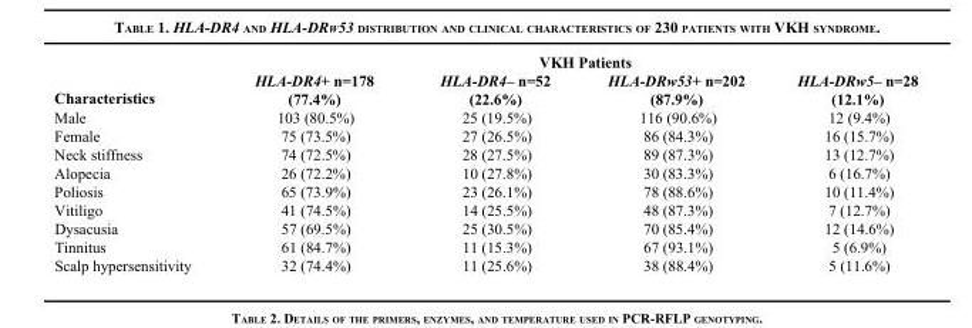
<table><thead><tr><td rowspan="2">Characteristics</td><td colspan="4">VKH Patients</td></tr><tr><td>HLA-DR4+ n=178 (77.4%)</td><td>HLA-DR4– n=52 (22.6%)</td><td>HLA-DRw53+ n=202 (87.9%)</td><td>HLA-DRw5– n=28 (12.1%)</td></tr></thead><tbody><tr><td>Male</td><td>103 (80.5%)</td><td>25 (19.5%)</td><td>116 (90.6%)</td><td>12 (9.4%)</td></tr><tr><td>Female</td><td>75 (73.5%)</td><td>27 (26.5%)</td><td>86 (84.3%)</td><td>16 (15.7%)</td></tr><tr><td>Neck stiffness</td><td>74 (72.5%)</td><td>28 (27.5%)</td><td>89 (87.3%)</td><td>13 (12.7%)</td></tr><tr><td>Alopecia</td><td>26 (72.2%)</td><td>10 (27.8%)</td><td>30 (83.3%)</td><td>6 (16.7%)</td></tr><tr><td>Poliosis</td><td>65 (73.9%)</td><td>23 (26.1%)</td><td>78 (88.6%)</td><td>10 (11.4%)</td></tr><tr><td>Vitiligo</td><td>41 (74.5%)</td><td>14 (25.5%)</td><td>48 (87.3%)</td><td>7 (12.7%)</td></tr><tr><td>Dysacusia</td><td>57 (69.5%)</td><td>25 (30.5%)</td><td>70 (85.4%)</td><td>12 (14.6%)</td></tr><tr><td>Tinnitus</td><td>61 (84.7%)</td><td>11 (15.3%)</td><td>67 (93.1%)</td><td>5 (6.9%)</td></tr><tr><td>Scalp hypersensitivity</td><td>32 (74.4%)</td><td>11 (25.6%)</td><td>38 (88.4%)</td><td>5 (11.6%)</td></tr></tbody></table>